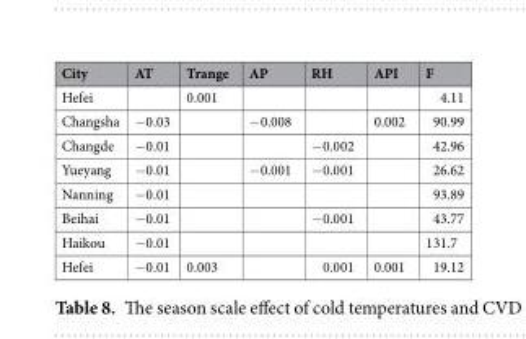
<table><thead><tr><td>City</td><td>AT</td><td>Trange</td><td>AP</td><td>RH</td><td>API</td><td>F</td></tr></thead><tbody><tr><td>Hefei</td><td></td><td>0.001</td><td></td><td></td><td></td><td>4.11</td></tr><tr><td>Changsha</td><td>−0.03</td><td></td><td>−0.008</td><td></td><td>0.002</td><td>90.99</td></tr><tr><td>Changde</td><td>−0.01</td><td></td><td></td><td>−0.002</td><td></td><td>42.96</td></tr><tr><td>Yueyang</td><td>−0.01</td><td></td><td>−0.001</td><td>−0.001</td><td></td><td>26.62</td></tr><tr><td>Nanning</td><td>−0.01</td><td></td><td></td><td></td><td></td><td>93.89</td></tr><tr><td>Beihai</td><td>−0.01</td><td></td><td></td><td>−0.001</td><td></td><td>43.77</td></tr><tr><td>Haikou</td><td>−0.01</td><td></td><td></td><td></td><td></td><td>131.7</td></tr><tr><td>Hefei</td><td>−0.01</td><td>0.003</td><td></td><td>0.001</td><td>0.001</td><td>19.12</td></tr></tbody></table>